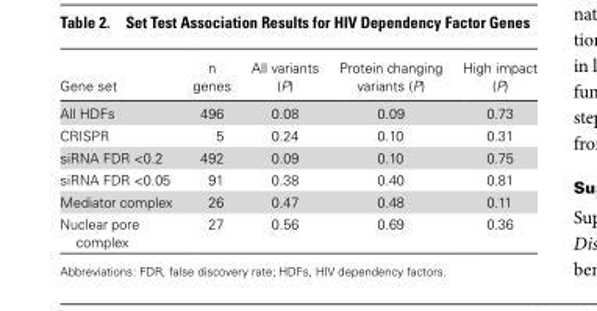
<table><thead><tr><td>Gene set</td><td>n genes</td><td>All variants (P)</td><td>Protein changing variants (P)</td><td>High impact (P)</td></tr></thead><tbody><tr><td>All HDFs</td><td>496</td><td>0.08</td><td>0.09</td><td>0.73</td></tr><tr><td>CRISPR</td><td>5</td><td>0.24</td><td>0.10</td><td>0.31</td></tr><tr><td>siRNA FDR &lt;0.2</td><td>492</td><td>0.09</td><td>0.10</td><td>0.75</td></tr><tr><td>siRNA FDR &lt;0.05</td><td>91</td><td>0.38</td><td>0.40</td><td>0.81</td></tr><tr><td>Mediator complex</td><td>26</td><td>0.47</td><td>0.48</td><td>0.11</td></tr><tr><td>Nuclear pore complex</td><td>27</td><td>0.56</td><td>0.69</td><td>0.36</td></tr></tbody></table>